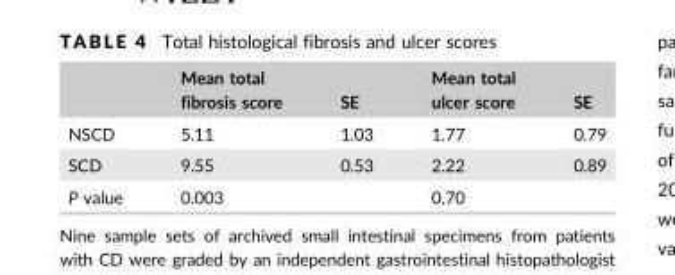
<table><thead><tr><td></td><td>Mean total fibrosis score</td><td>SE</td><td>Mean total ulcer score</td><td>SE</td></tr></thead><tbody><tr><td>NSCD</td><td>5.11</td><td>1.03</td><td>1.77</td><td>0.79</td></tr><tr><td>SCD</td><td>9.55</td><td>0.53</td><td>2.22</td><td>0.89</td></tr><tr><td>P value</td><td>0.003</td><td></td><td>0.70</td><td></td></tr></tbody></table>